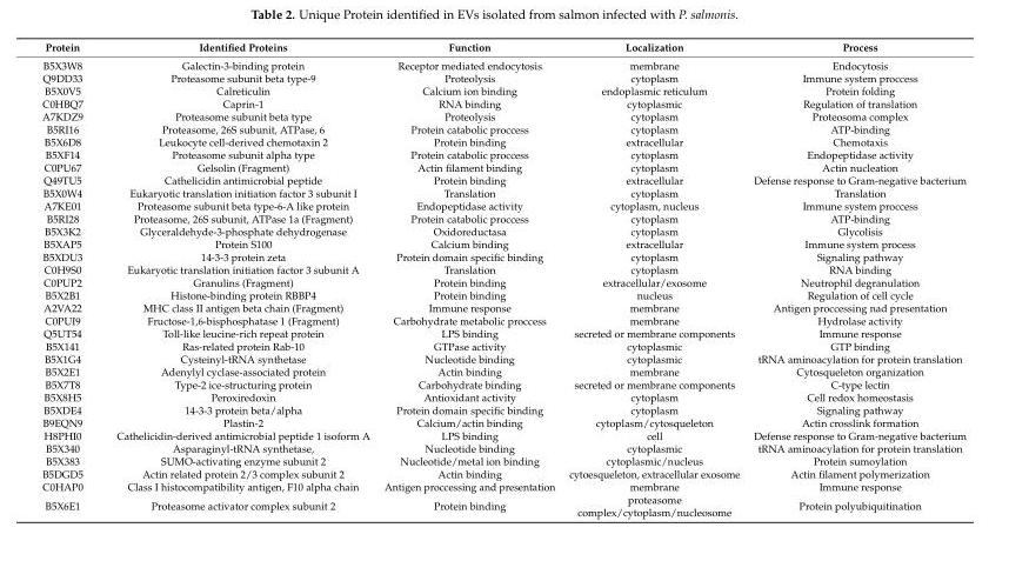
<table><thead><tr><td>Protein</td><td>Identified Proteins</td><td>Function</td><td>Localization</td><td>Process</td></tr></thead><tbody><tr><td>B5X3W8</td><td>Galectin-3-binding protein</td><td>Receptor mediated endocytosis</td><td>membrane</td><td>Endocytosis</td></tr><tr><td>Q9DD33</td><td>Proteasome subunit beta type-9</td><td>Proteolysis</td><td>cytoplasm</td><td>Immune system proccess</td></tr><tr><td>B5X0V5</td><td>Calreticulin</td><td>Calcium ion binding</td><td>endoplasmic reticulum</td><td>Protein folding</td></tr><tr><td>C0HBQ7</td><td>Caprin-1</td><td>RNA binding</td><td>cytoplasmic</td><td>Regulation of translation</td></tr><tr><td>A7KDZ9</td><td>Proteasome subunit beta type</td><td>Proteolysis</td><td>cytoplasm</td><td>Proteosoma complex</td></tr><tr><td>B5RI16</td><td>Proteasome, 26S subunit, ATPase, 6</td><td>Protein catabolic proccess</td><td>cytoplasm</td><td>ATP-binding</td></tr><tr><td>B5X6D8</td><td>Leukocyte cell-derived chemotaxin 2</td><td>Protein binding</td><td>extracellular</td><td>Chemotaxis</td></tr><tr><td>B5XF14</td><td>Proteasome subunit alpha type</td><td>Protein catabolic proccess</td><td>cytoplasm</td><td>Endopeptidase activity</td></tr><tr><td>C0PU67</td><td>Gelsolin (Fragment)</td><td>Actin filament binding</td><td>cytoplasm</td><td>Actin nucleation</td></tr><tr><td>Q49TU5</td><td>Cathelicidin antimicrobial peptide</td><td>Protein binding</td><td>extracellular</td><td>Defense response to Gram-negative bacterium</td></tr><tr><td>B5X0W4</td><td>Eukaryotic translation initiation factor 3 subunit I</td><td>Translation</td><td>cytoplasm</td><td>Translation</td></tr><tr><td>A7KE01</td><td>Proteasome subunit beta type-6-A like protein</td><td>Endopeptidase activity</td><td>cytoplasm, nucleus</td><td>Immune system proccess</td></tr><tr><td>B5RI28</td><td>Proteasome, 26S subunit, ATPase 1a (Fragment)</td><td>Protein catabolic proccess</td><td>cytoplasm</td><td>ATP-binding</td></tr><tr><td>B5X3K2</td><td>Glyceraldehyde-3-phosphate dehydrogenase</td><td>Oxidoreductasa</td><td>cytoplasm</td><td>Glycolisis</td></tr><tr><td>B5XAP5</td><td>Protein S100</td><td>Calcium binding</td><td>extracellular</td><td>Immune system process</td></tr><tr><td>B5XDU3</td><td>14-3-3 protein zeta</td><td>Protein domain specific binding</td><td>cytoplasm</td><td>Signaling pathway</td></tr><tr><td>C0H9S0</td><td>Eukaryotic translation initiation factor 3 subunit A</td><td>Translation</td><td>cytoplasm</td><td>RNA binding</td></tr><tr><td>C0PUP2</td><td>Granulins (Fragment)</td><td>Protein binding</td><td>extracellular/exosome</td><td>Neutrophil degranulation</td></tr><tr><td>B5X2B1</td><td>Histone-binding protein RBBP4</td><td>Protein binding</td><td>nucleus</td><td>Regulation of cell cycle</td></tr><tr><td>A2VA22</td><td>MHC class II antigen beta chain (Fragment)</td><td>Immune response</td><td>membrane</td><td>Antigen proccessing nad presentation</td></tr><tr><td>C0PUI9</td><td>Fructose-1,6-bisphosphatase 1 (Fragment)</td><td>Carbohydrate metabolic proccess</td><td>membrane</td><td>Hydrolase activity</td></tr><tr><td>Q5UT54</td><td>Toll-like leucine-rich repeat protein</td><td>LPS binding</td><td>secreted or membrane components</td><td>Immune response</td></tr><tr><td>B5X141</td><td>Ras-related protein Rab-10</td><td>GTPase activity</td><td>cytoplasmic</td><td>GTP binding</td></tr><tr><td>B5X1G4</td><td>Cysteinyl-tRNA synthetase</td><td>Nucleotide binding</td><td>cytoplasmic</td><td>tRNA aminoacylation for protein translation</td></tr><tr><td>B5X2E1</td><td>Adenylyl cyclase-associated protein</td><td>Actin binding</td><td>membrane</td><td>Cytosqueleton organization</td></tr><tr><td>B5X7T8</td><td>Type-2 ice-structuring protein</td><td>Carbohydrate binding</td><td>secreted or membrane components</td><td>C-type lectin</td></tr><tr><td>B5X8H5</td><td>Peroxiredoxin</td><td>Antioxidant activity</td><td>cytoplasm</td><td>Cell redox homeostasis</td></tr><tr><td>B5XDE4</td><td>14-3-3 protein beta/alpha</td><td>Protein domain specific binding</td><td>cytoplasm</td><td>Signaling pathway</td></tr><tr><td>B9EQN9</td><td>Plastin-2</td><td>Calcium/actin binding</td><td>cytoplasm/cytosqueleton</td><td>Actin crosslink formation</td></tr><tr><td>H8PHI0</td><td>Cathelicidin-derived antimicrobial peptide 1 isoform A</td><td>LPS binding</td><td>cell</td><td>Defense response to Gram-negative bacterium</td></tr><tr><td>B5X340</td><td>Asparaginyl-tRNA synthetase,</td><td>Nucleotide binding</td><td>cytoplasmic</td><td>tRNA aminoacylation for protein translation</td></tr><tr><td>B5X383</td><td>SUMO-activating enzyme subunit 2</td><td>Nucleotide/metal ion binding</td><td>cytoplasmic/nucleus</td><td>Protein sumoylation</td></tr><tr><td>B5DGD5</td><td>Actin related protein 2/3 complex subunit 2</td><td>Actin binding</td><td>cytoesqueleton, extracellular exosome</td><td>Actin filament polymerization</td></tr><tr><td>C0HAP0</td><td>Class I histocompatibility antigen, F10 alpha chain</td><td>Antigen proccessing and presentation</td><td>membrane</td><td>Immune response</td></tr><tr><td>B5X6E1</td><td>Proteasome activator complex subunit 2</td><td>Protein binding</td><td>proteasome complex/cytoplasm/nucleosome</td><td>Protein polyubiquitination</td></tr></tbody></table>